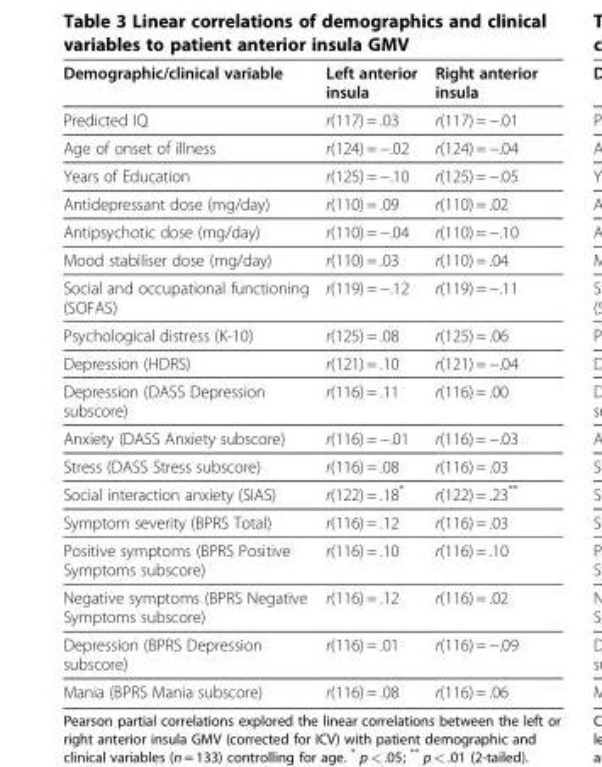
<table><thead><tr><td>Demographic/clinical variable</td><td>Left anterior insula</td><td>Right anterior insula</td></tr></thead><tbody><tr><td>Predicted IQ</td><td>r(117) = .03</td><td>r(117) = −.01</td></tr><tr><td>Age of onset of illness</td><td>r(124) = −.02</td><td>r(124) = −.04</td></tr><tr><td>Years of Education</td><td>r(125) = −.10</td><td>r(125) = −.05</td></tr><tr><td>Antidepressant dose (mg/day)</td><td>r(110) = .09</td><td>r(110) = .02</td></tr><tr><td>Antipsychotic dose (mg/day)</td><td>r(110) = −.04</td><td>r(110) = −.10</td></tr><tr><td>Mood stabiliser dose (mg/day)</td><td>r(110) = .03</td><td>r(110) = .04</td></tr><tr><td>Social and occupational functioning (SOFAS)</td><td>r(119) = −.12</td><td>r(119) = −.11</td></tr><tr><td>Psychological distress (K-10)</td><td>r(125) = .08</td><td>r(125) = .06</td></tr><tr><td>Depression (HDRS)</td><td>r(121) = .10</td><td>r(121) = −.04</td></tr><tr><td>Depression (DASS Depression subscore)</td><td>r(116) = .11</td><td>r(116) = .00</td></tr><tr><td>Anxiety (DASS Anxiety subscore)</td><td>r(116) = −.01</td><td>r(116) = −.03</td></tr><tr><td>Stress (DASS Stress subscore)</td><td>r(116) = .08</td><td>r(116) = .03</td></tr><tr><td>Social interaction anxiety (SIAS)</td><td>r(122) = .18*</td><td>r(122) = .23**</td></tr><tr><td>Symptom severity (BPRS Total)</td><td>r(116) = .12</td><td>r(116) = .03</td></tr><tr><td>Positive symptoms (BPRS Positive Symptoms subscore)</td><td>r(116) = .10</td><td>r(116) = .10</td></tr><tr><td>Negative symptoms (BPRS Negative Symptoms subscore)</td><td>r(116) = .12</td><td>r(116) = .02</td></tr><tr><td>Depression (BPRS Depression subscore)</td><td>r(116) = .01</td><td>r(116) = −.09</td></tr><tr><td>Mania (BPRS Mania subscore)</td><td>r(116) = .08</td><td>r(116) = .06</td></tr></tbody></table>